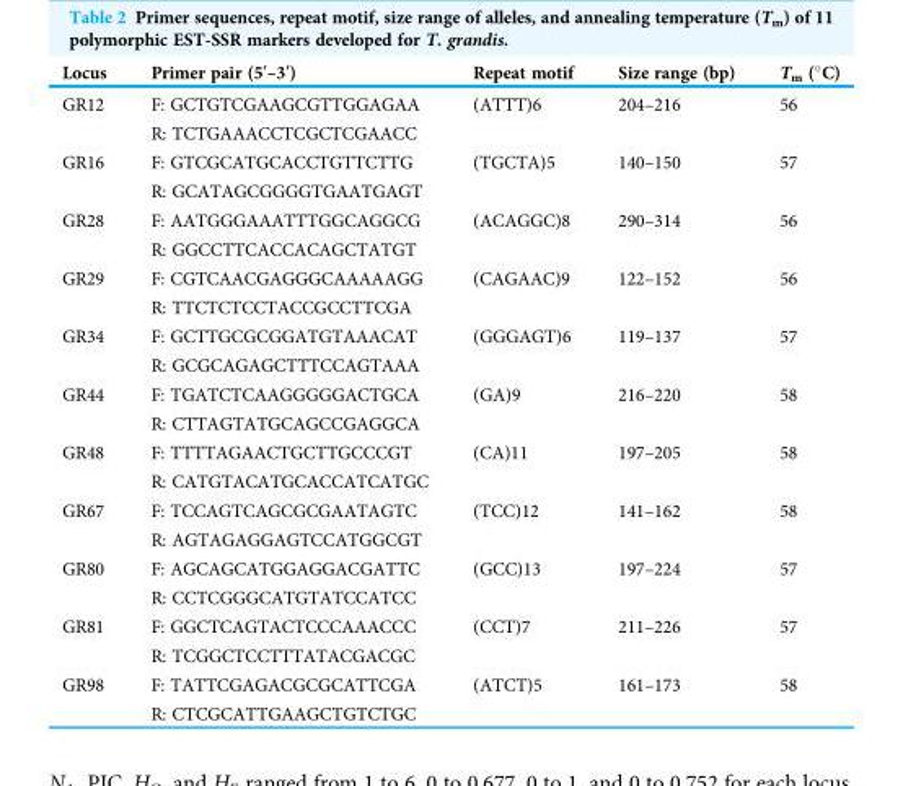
<table><thead><tr><td>Locus</td><td>Primer pair (5′–3′)</td><td>Repeat motif</td><td>Size range (bp)</td><td>T<sub>m</sub> (°C)</td></tr></thead><tbody><tr><td rowspan="2">GR12</td><td>F: GCTGTCGAAGCGTTGGAGAA</td><td>(ATTT)6</td><td>204–216</td><td>56</td></tr><tr><td>R: TCTGAAACCTCGCTCGAACC</td><td></td><td></td><td></td></tr><tr><td rowspan="2">GR16</td><td>F: GTCGCATGCACCTGTTCTTG</td><td>(TGCTA)5</td><td>140–150</td><td>57</td></tr><tr><td>R: GCATAGCGGGGTGAATGAGT</td><td></td><td></td><td></td></tr><tr><td rowspan="2">GR28</td><td>F: AATGGGAAATTTGGCAGGCG</td><td>(ACAGGC)8</td><td>290–314</td><td>56</td></tr><tr><td>R: GGCCTTCACCACAGCTATGT</td><td></td><td></td><td></td></tr><tr><td rowspan="2">GR29</td><td>F: CGTCAACGAGGGCAAAAAGG</td><td>(CAGAAC)9</td><td>122–152</td><td>56</td></tr><tr><td>R: TTCTCTCCTACCGCCTTCGA</td><td></td><td></td><td></td></tr><tr><td rowspan="2">GR34</td><td>F: GCTTGCGCGGATGTAAACAT</td><td>(GGGAGT)6</td><td>119–137</td><td>57</td></tr><tr><td>R: GCGCAGAGCTTTCCAGTAAA</td><td></td><td></td><td></td></tr><tr><td rowspan="2">GR44</td><td>F: TGATCTCAAGGGGGACTGCA</td><td>(GA)9</td><td>216–220</td><td>58</td></tr><tr><td>R: CTTAGTATGCAGCCGAGGCA</td><td></td><td></td><td></td></tr><tr><td rowspan="2">GR48</td><td>F: TTTTAGAACTGCTTGCCCGT</td><td>(CA)11</td><td>197–205</td><td>58</td></tr><tr><td>R: CATGTACATGCACCATCATGC</td><td></td><td></td><td></td></tr><tr><td rowspan="2">GR67</td><td>F: TCCAGTCAGCGCGAATAGTC</td><td>(TCC)12</td><td>141–162</td><td>58</td></tr><tr><td>R: AGTAGAGGAGTCCATGGCGT</td><td></td><td></td><td></td></tr><tr><td rowspan="2">GR80</td><td>F: AGCAGCATGGAGGACGATTC</td><td>(GCC)13</td><td>197–224</td><td>57</td></tr><tr><td>R: CCTCGGGCATGTATCCATCC</td><td></td><td></td><td></td></tr><tr><td rowspan="2">GR81</td><td>F: GGCTCAGTACTCCCAAACCC</td><td>(CCT)7</td><td>211–226</td><td>57</td></tr><tr><td>R: TCGGCTCCTTTATACGACGC</td><td></td><td></td><td></td></tr><tr><td rowspan="2">GR98</td><td>F: TATTCGAGACGCGCATTCGA</td><td>(ATCT)5</td><td>161–173</td><td>58</td></tr><tr><td>R: CTCGCATTGAAGCTGTCTGC</td><td></td><td></td><td></td></tr></tbody></table>